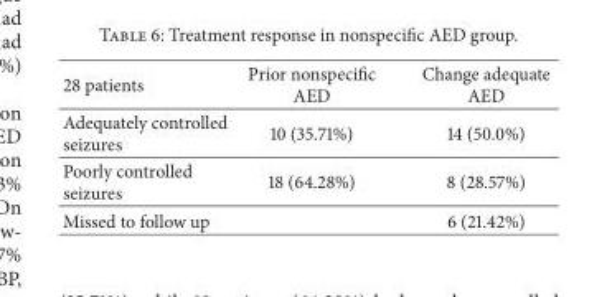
<table><thead><tr><td>28 patients</td><td>Prior nonspecific AED</td><td>Change adequate AED</td></tr></thead><tbody><tr><td>Adequately controlled seizures</td><td>10 (35.71%)</td><td>14 (50.0%)</td></tr><tr><td>Poorly controlled seizures</td><td>18 (64.28%)</td><td>8 (28.57%)</td></tr><tr><td>Missed to follow up</td><td></td><td>6 (21.42%)</td></tr></tbody></table>